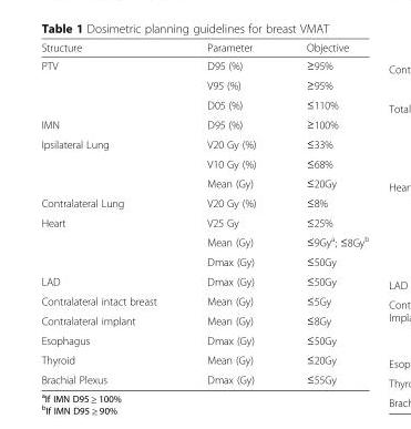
<table><thead><tr><td>Structure</td><td>Parameter</td><td>Objective</td></tr></thead><tbody><tr><td rowspan="3">PTV</td><td>D95 (%)</td><td>≥95%</td></tr><tr><td>V95 (%)</td><td>≥95%</td></tr><tr><td>D05 (%)</td><td>≤110%</td></tr><tr><td>IMN</td><td>D95 (%)</td><td>≥100%</td></tr><tr><td rowspan="3">Ipsilateral Lung</td><td>V20 Gy (%)</td><td>≤33%</td></tr><tr><td>V10 Gy (%)</td><td>≤68%</td></tr><tr><td>Mean (Gy)</td><td>≤20Gy</td></tr><tr><td>Contralateral Lung</td><td>V20 Gy (%)</td><td>≤8%</td></tr><tr><td rowspan="3">Heart</td><td>V25 Gy</td><td>≤25%</td></tr><tr><td>Mean (Gy)</td><td>≤9Gy<sup>a</sup>; ≤8Gy<sup>b</sup></td></tr><tr><td>Dmax (Gy)</td><td>≤50Gy</td></tr><tr><td>LAD</td><td>Dmax (Gy)</td><td>≤50Gy</td></tr><tr><td>Contralateral intact breast</td><td>Mean (Gy)</td><td>≤5Gy</td></tr><tr><td>Contralateral implant</td><td>Mean (Gy)</td><td>≤8Gy</td></tr><tr><td>Esophagus</td><td>Dmax (Gy)</td><td>≤50Gy</td></tr><tr><td>Thyroid</td><td>Mean (Gy)</td><td>≤20Gy</td></tr><tr><td>Brachial Plexus</td><td>Dmax (Gy)</td><td>≤55Gy</td></tr></tbody></table>